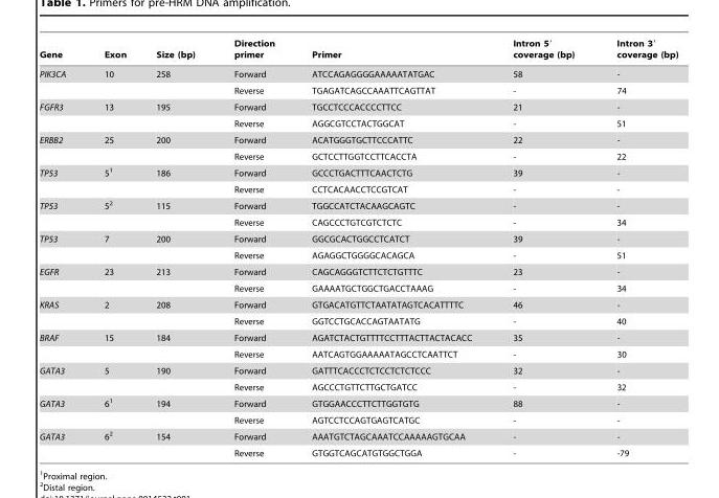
<table><thead><tr><td>Gene</td><td>Exon</td><td>Size (bp)</td><td>Direction primer</td><td>Primer</td><td>Intron 5′ coverage (bp)</td><td>Intron 3′ coverage (bp)</td></tr></thead><tbody><tr><td rowspan="2">PIK3CA</td><td>10</td><td>258</td><td>Forward</td><td>ATCCAGAGGGGAAAAATATGAC</td><td>58</td><td>-</td></tr><tr><td></td><td></td><td>Reverse</td><td>TGAGATCAGCCAAATTCAGTTAT</td><td>-</td><td>74</td></tr><tr><td rowspan="2">FGFR3</td><td>13</td><td>195</td><td>Forward</td><td>TGCCTCCCACCCCTTCC</td><td>21</td><td>-</td></tr><tr><td></td><td></td><td>Reverse</td><td>AGGCGTCCTACTGGCAT</td><td>-</td><td>51</td></tr><tr><td rowspan="2">ERBB2</td><td>25</td><td>200</td><td>Forward</td><td>ACATGGGTGCTTCCCATTC</td><td>22</td><td>-</td></tr><tr><td></td><td></td><td>Reverse</td><td>GCTCCTTGGTCCTTCACCTA</td><td>-</td><td>22</td></tr><tr><td rowspan="2">TP53</td><td>5<sup>1</sup></td><td>186</td><td>Forward</td><td>GCCCTGACTTTCAACTCTG</td><td>39</td><td>-</td></tr><tr><td></td><td></td><td>Reverse</td><td>CCTCACAACCTCCGTCAT</td><td>-</td><td>-</td></tr><tr><td rowspan="2">TP53</td><td>5<sup>2</sup></td><td>115</td><td>Forward</td><td>TGGCCATCTACAAGCAGTC</td><td>-</td><td>-</td></tr><tr><td></td><td></td><td>Reverse</td><td>CAGCCCTGTCGTCTCTC</td><td>-</td><td>34</td></tr><tr><td rowspan="2">TP53</td><td>7</td><td>200</td><td>Forward</td><td>GGCGCACTGGCCTCATCT</td><td>39</td><td>-</td></tr><tr><td></td><td></td><td>Reverse</td><td>AGAGGCTGGGGCACAGCA</td><td>-</td><td>51</td></tr><tr><td rowspan="2">EGFR</td><td>23</td><td>213</td><td>Forward</td><td>CAGCAGGGTCTTCTCTGTTTC</td><td>23</td><td>-</td></tr><tr><td></td><td></td><td>Reverse</td><td>GAAAATGCTGGCTGACCTAAAG</td><td>-</td><td>34</td></tr><tr><td rowspan="2">KRAS</td><td>2</td><td>208</td><td>Forward</td><td>GTGACATGTTCTAATATAGTCACATTTTC</td><td>46</td><td>-</td></tr><tr><td></td><td></td><td>Reverse</td><td>GGTCCTGCACCAGTAATATG</td><td>-</td><td>40</td></tr><tr><td rowspan="2">BRAF</td><td>15</td><td>184</td><td>Forward</td><td>AGATCTACTGTTTTCCTTTACTTACTACACC</td><td>35</td><td>-</td></tr><tr><td></td><td></td><td>Reverse</td><td>AATCAGTGGAAAAATAGCCTCAATTCT</td><td>-</td><td>30</td></tr><tr><td rowspan="2">GATA3</td><td>5</td><td>190</td><td>Forward</td><td>GATTTCACCCTCTCCTCTCTCCC</td><td>32</td><td>-</td></tr><tr><td></td><td></td><td>Reverse</td><td>AGCCCTGTTCTTGCTGATCC</td><td>-</td><td>32</td></tr><tr><td rowspan="2">GATA3</td><td>6<sup>1</sup></td><td>194</td><td>Forward</td><td>GTGGAACCCTTCTTGGTGTG</td><td>88</td><td>-</td></tr><tr><td></td><td></td><td>Reverse</td><td>AGTCCTCCAGTGAGTCATGC</td><td>-</td><td>-</td></tr><tr><td rowspan="2">GATA3</td><td>6<sup>2</sup></td><td>154</td><td>Forward</td><td>AAATGTCTAGCAAATCCAAAAAGTGCAA</td><td>-</td><td>-</td></tr><tr><td></td><td></td><td>Reverse</td><td>GTGGTCAGCATGTGGCTGGA</td><td>-</td><td>-79</td></tr></tbody></table>